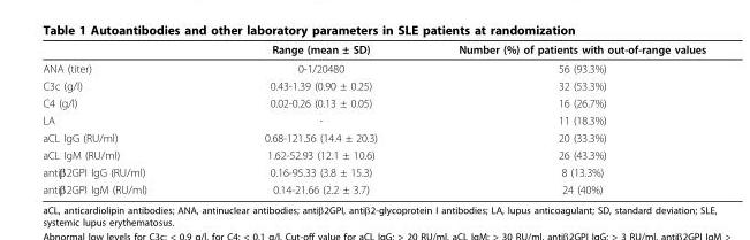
<table><thead><tr><td></td><td>Range (mean ± SD)</td><td>Number (%) of patients with out-of-range values</td></tr></thead><tbody><tr><td>ANA (titer)</td><td>0-1/20480</td><td>56 (93.3%)</td></tr><tr><td>C3c (g/l)</td><td>0.43-1.39 (0.90 ± 0.25)</td><td>32 (53.3%)</td></tr><tr><td>C4 (g/l)</td><td>0.02-0.26 (0.13 ± 0.05)</td><td>16 (26.7%)</td></tr><tr><td>LA</td><td>-</td><td>11 (18.3%)</td></tr><tr><td>aCL IgG (RU/ml)</td><td>0.68-121.56 (14.4 ± 20.3)</td><td>20 (33.3%)</td></tr><tr><td>aCL IgM (RU/ml)</td><td>1.62-52.93 (12.1 ± 10.6)</td><td>26 (43.3%)</td></tr><tr><td>antiβ2GPI IgG (RU/ml)</td><td>0.16-95.33 (3.8 ± 15.3)</td><td>8 (13.3%)</td></tr><tr><td>antiβ2GPI IgM (RU/ml)</td><td>0.14-21.66 (2.2 ± 3.7)</td><td>24 (40%)</td></tr></tbody></table>